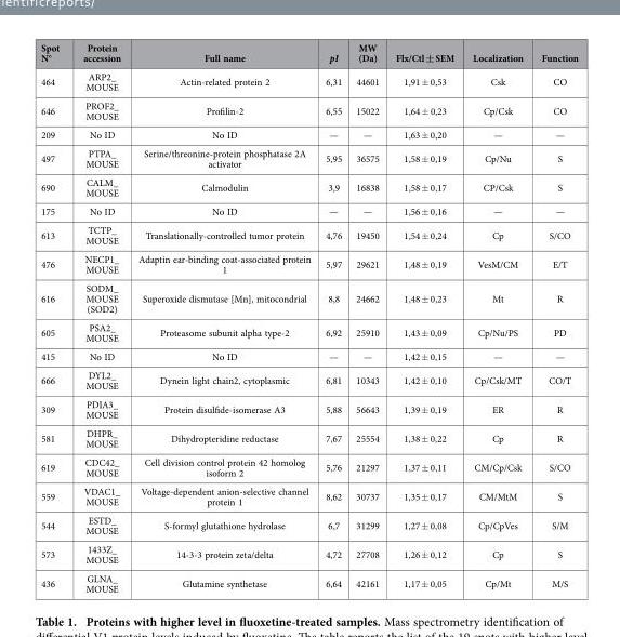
<table><thead><tr><td>Spot N°</td><td>Protein accession</td><td>Full name</td><td>pI</td><td>MW (Da)</td><td>Flx/Ctl ± SEM</td><td>Localization</td><td>Function</td></tr></thead><tbody><tr><td>464</td><td>ARP2_ MOUSE</td><td>Actin-related protein 2</td><td>6,31</td><td>44601</td><td>1,91 ± 0,53</td><td>Csk</td><td>CO</td></tr><tr><td>646</td><td>PROF2_ MOUSE</td><td>Profilin-2</td><td>6,55</td><td>15022</td><td>1,64 ± 0,23</td><td>Cp/Csk</td><td>CO</td></tr><tr><td>209</td><td>No ID</td><td>No ID</td><td>—</td><td>—</td><td>1,63 ± 0,20</td><td>—</td><td>—</td></tr><tr><td>497</td><td>PTPA_ MOUSE</td><td>Serine/threonine-protein phosphatase 2A activator</td><td>5,95</td><td>36575</td><td>1,58 ± 0,19</td><td>Cp/Nu</td><td>S</td></tr><tr><td>690</td><td>CALM_ MOUSE</td><td>Calmodulin</td><td>3,9</td><td>16838</td><td>1,58 ± 0,17</td><td>CP/Csk</td><td>S</td></tr><tr><td>175</td><td>No ID</td><td>No ID</td><td>—</td><td>—</td><td>1,56 ± 0,16</td><td>—</td><td>—</td></tr><tr><td>613</td><td>TCTP_ MOUSE</td><td>Translationally-controlled tumor protein</td><td>4,76</td><td>19450</td><td>1,54 ± 0,24</td><td>Cp</td><td>S/CO</td></tr><tr><td>476</td><td>NECP1_ MOUSE</td><td>Adaptin ear-binding coat-associated protein 1</td><td>5,97</td><td>29621</td><td>1,48 ± 0,19</td><td>VesM/CM</td><td>E/T</td></tr><tr><td>616</td><td>SODM_ MOUSE (SOD2)</td><td>Superoxide dismutase [Mn], mitocondrial</td><td>8,8</td><td>24662</td><td>1,48 ± 0,23</td><td>Mt</td><td>R</td></tr><tr><td>605</td><td>PSA2_ MOUSE</td><td>Proteasome subunit alpha type-2</td><td>6,92</td><td>25910</td><td>1,43 ± 0,09</td><td>Cp/Nu/PS</td><td>PD</td></tr><tr><td>415</td><td>No ID</td><td>No ID</td><td>—</td><td>—</td><td>1,42 ± 0,15</td><td>—</td><td>—</td></tr><tr><td>666</td><td>DYL2_ MOUSE</td><td>Dynein light chain2, cytoplasmic</td><td>6,81</td><td>10343</td><td>1,42 ± 0,10</td><td>Cp/Csk/MT</td><td>CO/T</td></tr><tr><td>309</td><td>PDIA3_ MOUSE</td><td>Protein disulfide-isomerase A3</td><td>5,88</td><td>56643</td><td>1,39 ± 0,19</td><td>ER</td><td>R</td></tr><tr><td>581</td><td>DHPR_ MOUSE</td><td>Dihydropteridine reductase</td><td>7,67</td><td>25554</td><td>1,38 ± 0,22</td><td>Cp</td><td>R</td></tr><tr><td>619</td><td>CDC42_ MOUSE</td><td>Cell division control protein 42 homolog isoform 2</td><td>5,76</td><td>21297</td><td>1,37 ± 0,11</td><td>CM/Cp/Csk</td><td>S/CO</td></tr><tr><td>559</td><td>VDAC1_ MOUSE</td><td>Voltage-dependent anion-selective channel protein 1</td><td>8,62</td><td>30737</td><td>1,35 ± 0,17</td><td>CM/MtM</td><td>S</td></tr><tr><td>544</td><td>ESTD_ MOUSE</td><td>S-formyl glutathione hydrolase</td><td>6,7</td><td>31299</td><td>1,27 ± 0,08</td><td>Cp/CpVes</td><td>S/M</td></tr><tr><td>573</td><td>1433Z_ MOUSE</td><td>14-3-3 protein zeta/delta</td><td>4,72</td><td>27708</td><td>1,26 ± 0,12</td><td>Cp</td><td>S</td></tr><tr><td>436</td><td>GLNA_ MOUSE</td><td>Glutamine synthetase</td><td>6,64</td><td>42161</td><td>1,17 ± 0,05</td><td>Cp/Mt</td><td>M/S</td></tr></tbody></table>